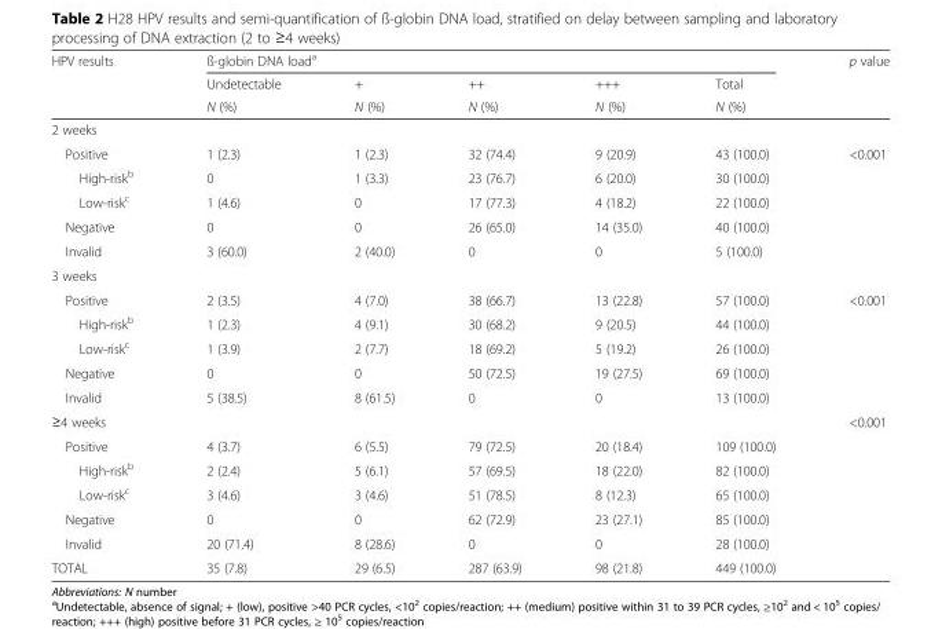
<table><thead><tr><td rowspan="3">HPV results</td><td colspan="5">ß-globin DNA load<sup>a</sup></td><td rowspan="3">p value</td></tr><tr><td rowspan="2">Undetectable N (%)</td><td rowspan="2">+ N (%)</td><td rowspan="2">++ N (%)</td><td rowspan="2">+++ N (%)</td><td rowspan="2">Total N (%)</td></tr><tr></tr></thead><tbody><tr><td colspan="7">2 weeks</td></tr><tr><td>Positive</td><td>1 (2.3)</td><td>1 (2.3)</td><td>32 (74.4)</td><td>9 (20.9)</td><td>43 (100.0)</td><td rowspan="5">&lt;0.001</td></tr><tr><td>High-risk<sup>b</sup></td><td>0</td><td>1 (3.3)</td><td>23 (76.7)</td><td>6 (20.0)</td><td>30 (100.0)</td></tr><tr><td>Low-risk<sup>c</sup></td><td>1 (4.6)</td><td>0</td><td>17 (77.3)</td><td>4 (18.2)</td><td>22 (100.0)</td></tr><tr><td>Negative</td><td>0</td><td>0</td><td>26 (65.0)</td><td>14 (35.0)</td><td>40 (100.0)</td></tr><tr><td>Invalid</td><td>3 (60.0)</td><td>2 (40.0)</td><td>0</td><td>0</td><td>5 (100.0)</td></tr><tr><td colspan="7">3 weeks</td></tr><tr><td>Positive</td><td>2 (3.5)</td><td>4 (7.0)</td><td>38 (66.7)</td><td>13 (22.8)</td><td>57 (100.0)</td><td rowspan="5">&lt;0.001</td></tr><tr><td>High-risk<sup>b</sup></td><td>1 (2.3)</td><td>4 (9.1)</td><td>30 (68.2)</td><td>9 (20.5)</td><td>44 (100.0)</td></tr><tr><td>Low-risk<sup>c</sup></td><td>1 (3.9)</td><td>2 (7.7)</td><td>18 (69.2)</td><td>5 (19.2)</td><td>26 (100.0)</td></tr><tr><td>Negative</td><td>0</td><td>0</td><td>50 (72.5)</td><td>19 (27.5)</td><td>69 (100.0)</td></tr><tr><td>Invalid</td><td>5 (38.5)</td><td>8 (61.5)</td><td>0</td><td>0</td><td>13 (100.0)</td></tr><tr><td colspan="6">≥4 weeks</td><td rowspan="6">&lt;0.001</td></tr><tr><td>Positive</td><td>4 (3.7)</td><td>6 (5.5)</td><td>79 (72.5)</td><td>20 (18.4)</td><td>109 (100.0)</td></tr><tr><td>High-risk<sup>b</sup></td><td>2 (2.4)</td><td>5 (6.1)</td><td>57 (69.5)</td><td>18 (22.0)</td><td>82 (100.0)</td></tr><tr><td>Low-risk<sup>c</sup></td><td>3 (4.6)</td><td>3 (4.6)</td><td>51 (78.5)</td><td>8 (12.3)</td><td>65 (100.0)</td></tr><tr><td>Negative</td><td>0</td><td>0</td><td>62 (72.9)</td><td>23 (27.1)</td><td>85 (100.0)</td></tr><tr><td>Invalid</td><td>20 (71.4)</td><td>8 (28.6)</td><td>0</td><td>0</td><td>28 (100.0)</td></tr><tr><td>TOTAL</td><td>35 (7.8)</td><td>29 (6.5)</td><td>287 (63.9)</td><td>98 (21.8)</td><td>449 (100.0)</td><td></td></tr></tbody></table>